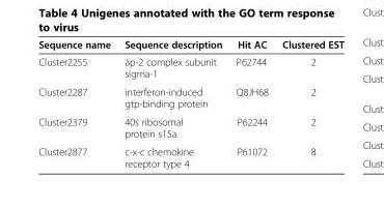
<table><thead><tr><td>Sequence name</td><td>Sequence description</td><td>Hit AC</td><td>Clustered EST</td></tr></thead><tbody><tr><td>Cluster2255</td><td>ap-2 complex subunit sigma-1</td><td>P62744</td><td>2</td></tr><tr><td>Cluster2287</td><td>interferon-induced gtp-binding protein</td><td>Q8JH68</td><td>2</td></tr><tr><td>Cluster2379</td><td>40s ribosomal protein s15a</td><td>P62244</td><td>2</td></tr><tr><td>Cluster2877</td><td>c-x-c chemokine receptor type 4</td><td>P61072</td><td>8</td></tr></tbody></table>